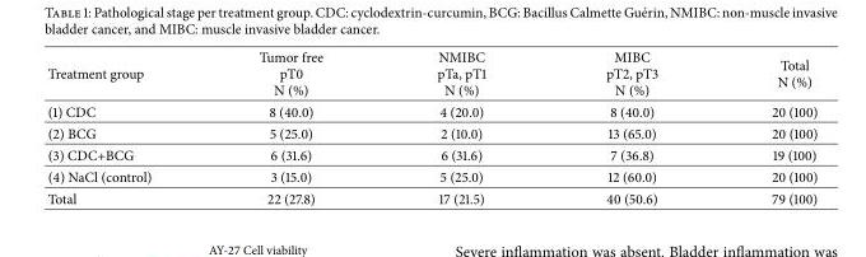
<table><thead><tr><td>Treatment group</td><td>Tumor free pT0 N (%)</td><td>NMIBC pTa, pT1 N (%)</td><td>MIBC pT2, pT3 N (%)</td><td>Total N (%)</td></tr></thead><tbody><tr><td>(1) CDC</td><td>8 (40.0)</td><td>4 (20.0)</td><td>8 (40.0)</td><td>20 (100)</td></tr><tr><td>(2) BCG</td><td>5 (25.0)</td><td>2 (10.0)</td><td>13 (65.0)</td><td>20 (100)</td></tr><tr><td>(3) CDC+BCG</td><td>6 (31.6)</td><td>6 (31.6)</td><td>7 (36.8)</td><td>19 (100)</td></tr><tr><td>(4) NaCl (control)</td><td>3 (15.0)</td><td>5 (25.0)</td><td>12 (60.0)</td><td>20 (100)</td></tr><tr><td>Total</td><td>22 (27.8)</td><td>17 (21.5)</td><td>40 (50.6)</td><td>79 (100)</td></tr></tbody></table>